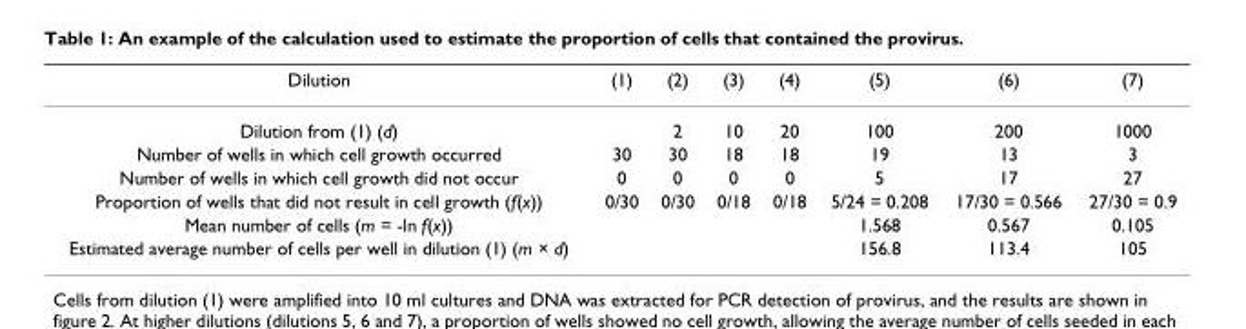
<table><thead><tr><td>Dilution</td><td>(1)</td><td>(2)</td><td>(3)</td><td>(4)</td><td>(5)</td><td>(6)</td><td>(7)</td></tr></thead><tbody><tr><td>Dilution from (1) (d)</td><td></td><td>2</td><td>10</td><td>20</td><td>100</td><td>200</td><td>1000</td></tr><tr><td>Number of wells in which cell growth occurred</td><td>30</td><td>30</td><td>18</td><td>18</td><td>19</td><td>13</td><td>3</td></tr><tr><td>Number of wells in which cell growth did not occur</td><td>0</td><td>0</td><td>0</td><td>0</td><td>5</td><td>17</td><td>27</td></tr><tr><td>Proportion of wells that did not result in cell growth (f(x))</td><td>0/30</td><td>0/30</td><td>0/18</td><td>0/18</td><td>5/24 = 0.208</td><td>17/30 = 0.566</td><td>27/30 = 0.9</td></tr><tr><td>Mean number of cells (m = -ln f(x))</td><td></td><td></td><td></td><td></td><td>1.568</td><td>0.567</td><td>0.105</td></tr><tr><td>Estimated average number of cells per well in dilution (1) (m × d)</td><td></td><td></td><td></td><td></td><td>156.8</td><td>113.4</td><td>105</td></tr></tbody></table>